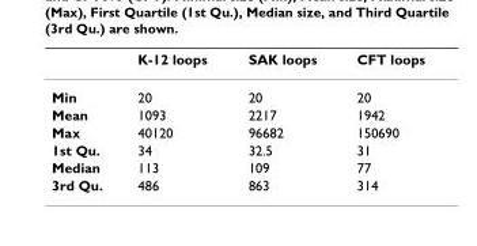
<table><thead><tr><td></td><td>K-12 loops</td><td>SAK loops</td><td>CFT loops</td></tr></thead><tbody><tr><td>Min</td><td>20</td><td>20</td><td>20</td></tr><tr><td>Mean</td><td>1093</td><td>2217</td><td>1942</td></tr><tr><td>Max</td><td>40120</td><td>96682</td><td>150690</td></tr><tr><td>1st Qu.</td><td>34</td><td>32.5</td><td>31</td></tr><tr><td>Median</td><td>113</td><td>109</td><td>77</td></tr><tr><td>3rd Qu.</td><td>486</td><td>863</td><td>314</td></tr></tbody></table>